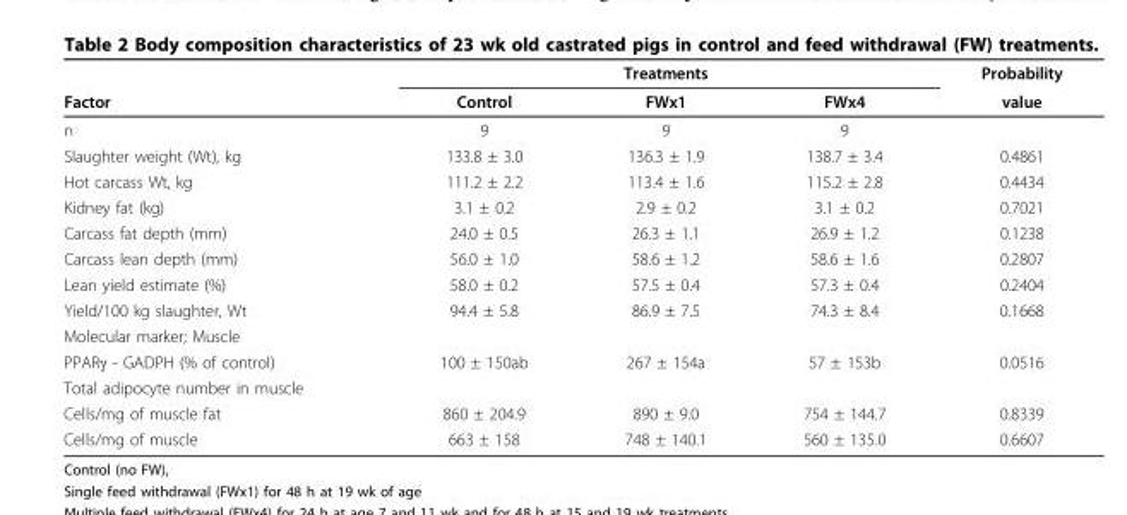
<table><thead><tr><td rowspan="2">Factor</td><td rowspan="2">Control</td><td rowspan="2">Treatments FWx1</td><td rowspan="2">FWx4</td><td rowspan="2">Probability value</td></tr><tr></tr></thead><tbody><tr><td>n</td><td>9</td><td>9</td><td>9</td><td></td></tr><tr><td>Slaughter weight (Wt), kg</td><td>133.8 ± 3.0</td><td>136.3 ± 1.9</td><td>138.7 ± 3.4</td><td>0.4861</td></tr><tr><td>Hot carcass Wt, kg</td><td>111.2 ± 2.2</td><td>113.4 ± 1.6</td><td>115.2 ± 2.8</td><td>0.4434</td></tr><tr><td>Kidney fat (kg)</td><td>3.1 ± 0.2</td><td>2.9 ± 0.2</td><td>3.1 ± 0.2</td><td>0.7021</td></tr><tr><td>Carcass fat depth (mm)</td><td>24.0 ± 0.5</td><td>26.3 ± 1.1</td><td>26.9 ± 1.2</td><td>0.1238</td></tr><tr><td>Carcass lean depth (mm)</td><td>56.0 ± 1.0</td><td>58.6 ± 1.2</td><td>58.6 ± 1.6</td><td>0.2807</td></tr><tr><td>Lean yield estimate (%)</td><td>58.0 ± 0.2</td><td>57.5 ± 0.4</td><td>57.3 ± 0.4</td><td>0.2404</td></tr><tr><td>Yield/100 kg slaughter, Wt</td><td>94.4 ± 5.8</td><td>86.9 ± 7.5</td><td>74.3 ± 8.4</td><td>0.1668</td></tr><tr><td colspan="5">Molecular marker; Muscle</td></tr><tr><td>PPARγ - GADPH (% of control)</td><td>100 ± 150ab</td><td>267 ± 154a</td><td>57 ± 153b</td><td>0.0516</td></tr><tr><td colspan="5">Total adipocyte number in muscle</td></tr><tr><td>Cells/mg of muscle fat</td><td>860 ± 204.9</td><td>890 ± 9.0</td><td>754 ± 144.7</td><td>0.8339</td></tr><tr><td>Cells/mg of muscle</td><td>663 ± 158</td><td>748 ± 140.1</td><td>560 ± 135.0</td><td>0.6607</td></tr></tbody></table>